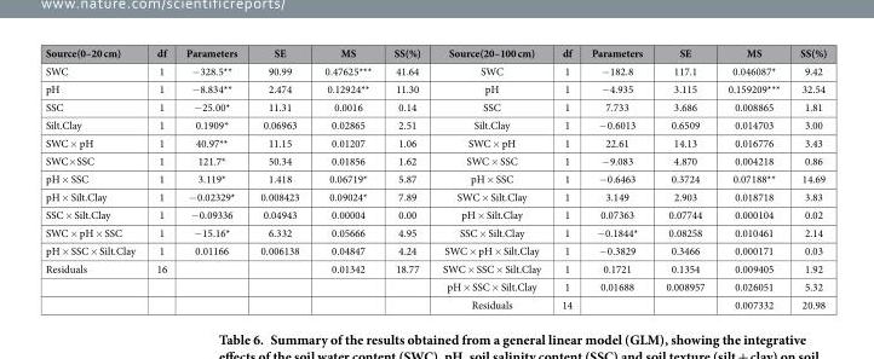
<table><thead><tr><td>Source(0–20 cm)</td><td>df</td><td>Parameters</td><td>SE</td><td>MS</td><td>SS(%)</td><td>Source(20–100 cm)</td><td>df</td><td>Parameters</td><td>SE</td><td>MS</td><td>SS(%)</td></tr></thead><tbody><tr><td>SWC</td><td>1</td><td>− 328.5**</td><td>90.99</td><td>0.47625***</td><td>41.64</td><td>SWC</td><td>1</td><td>− 182.8</td><td>117.1</td><td>0.046087*</td><td>9.42</td></tr><tr><td>pH</td><td>1</td><td>− 8.834**</td><td>2.474</td><td>0.12924**</td><td>11.30</td><td>pH</td><td>1</td><td>− 4.935</td><td>3.115</td><td>0.159209***</td><td>32.54</td></tr><tr><td>SSC</td><td>1</td><td>− 25.00*</td><td>11.31</td><td>0.0016</td><td>0.14</td><td>SSC</td><td>1</td><td>7.733</td><td>3.686</td><td>0.008865</td><td>1.81</td></tr><tr><td>Silt.Clay</td><td>1</td><td>0.1909*</td><td>0.06963</td><td>0.02865</td><td>2.51</td><td>Silt.Clay</td><td>1</td><td>− 0.6013</td><td>0.6509</td><td>0.014703</td><td>3.00</td></tr><tr><td>SWC × pH</td><td>1</td><td>40.97**</td><td>11.15</td><td>0.01207</td><td>1.06</td><td>SWC × pH</td><td>1</td><td>22.61</td><td>14.13</td><td>0.016776</td><td>3.43</td></tr><tr><td>SWC× SSC</td><td>1</td><td>121.7*</td><td>50.34</td><td>0.01856</td><td>1.62</td><td>SWC × SSC</td><td>1</td><td>− 9.083</td><td>4.870</td><td>0.004218</td><td>0.86</td></tr><tr><td>pH × SSC</td><td>1</td><td>3.119*</td><td>1.418</td><td>0.06719*</td><td>5.87</td><td>pH × SSC</td><td>1</td><td>− 0.6463</td><td>0.3724</td><td>0.07188**</td><td>14.69</td></tr><tr><td>pH × Silt.Clay</td><td>1</td><td>− 0.02329*</td><td>0.008423</td><td>0.09024*</td><td>7.89</td><td>SWC × Silt.Clay</td><td>1</td><td>3.149</td><td>2.903</td><td>0.018718</td><td>3.83</td></tr><tr><td>SSC × Silt.Clay</td><td>1</td><td>− 0.09336</td><td>0.04943</td><td>0.00004</td><td>0.00</td><td>pH × Silt.Clay</td><td>1</td><td>0.07363</td><td>0.07744</td><td>0.000104</td><td>0.02</td></tr><tr><td>SWC × pH × SSC</td><td>1</td><td>− 15.16*</td><td>6.332</td><td>0.05666</td><td>4.95</td><td>SSC × Silt.Clay</td><td>1</td><td>− 0.1844*</td><td>0.08258</td><td>0.010461</td><td>2.14</td></tr><tr><td>pH × SSC × Silt.Clay</td><td>1</td><td>0.01166</td><td>0.006138</td><td>0.04847</td><td>4.24</td><td>SWC × pH × Silt.Clay</td><td>1</td><td>− 0.3829</td><td>0.3466</td><td>0.000171</td><td>0.03</td></tr><tr><td rowspan="3">Residuals</td><td>16</td><td></td><td></td><td>0.01342</td><td>18.77</td><td>SWC × SSC × Silt.Clay</td><td>1</td><td>0.1721</td><td>0.1354</td><td>0.009405</td><td>1.92</td></tr><tr><td></td><td></td><td></td><td></td><td></td><td>pH × SSC × Silt.Clay</td><td>1</td><td>0.01688</td><td>0.008957</td><td>0.026051</td><td>5.32</td></tr><tr><td></td><td></td><td></td><td></td><td></td><td>Residuals</td><td>14</td><td></td><td></td><td>0.007332</td><td>20.98</td></tr></tbody></table>